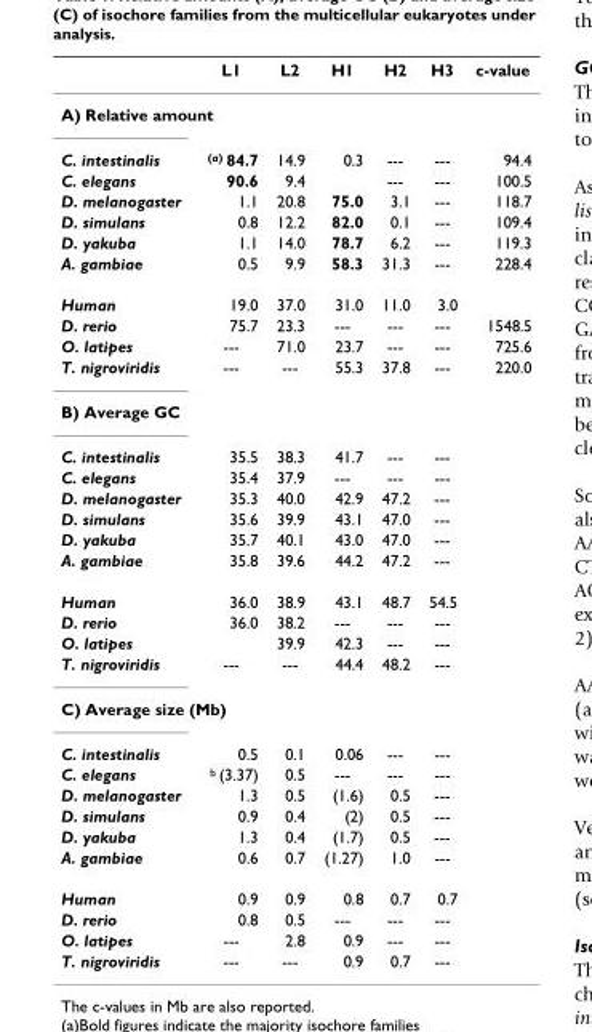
<table><thead><tr><td></td><td>L1</td><td>L2</td><td>H1</td><td>H2</td><td>H3</td><td>c-value</td></tr></thead><tbody><tr><td colspan="7">A) Relative amount</td></tr><tr><td>C. intestinalis</td><td><sup>(a)</sup> 84.7</td><td>14.9</td><td>0.3</td><td>---</td><td>---</td><td>94.4</td></tr><tr><td>C. elegans</td><td>90.6</td><td>9.4</td><td></td><td>---</td><td>---</td><td>100.5</td></tr><tr><td>D. melanogaster</td><td>1.1</td><td>20.8</td><td>75.0</td><td>3.1</td><td>---</td><td>118.7</td></tr><tr><td>D. simulans</td><td>0.8</td><td>12.2</td><td>82.0</td><td>0.1</td><td>---</td><td>109.4</td></tr><tr><td>D. yakuba</td><td>1.1</td><td>14.0</td><td>78.7</td><td>6.2</td><td>---</td><td>119.3</td></tr><tr><td>A. gambiae</td><td>0.5</td><td>9.9</td><td>58.3</td><td>31.3</td><td>---</td><td>228.4</td></tr><tr><td>Human</td><td>19.0</td><td>37.0</td><td>31.0</td><td>11.0</td><td>3.0</td><td></td></tr><tr><td>D. rerio</td><td>75.7</td><td>23.3</td><td>---</td><td>---</td><td>---</td><td>1548.5</td></tr><tr><td>O. latipes</td><td>---</td><td>71.0</td><td>23.7</td><td>---</td><td>---</td><td>725.6</td></tr><tr><td>T. nigroviridis</td><td>---</td><td>---</td><td>55.3</td><td>37.8</td><td>---</td><td>220.0</td></tr><tr><td colspan="7">B) Average GC</td></tr><tr><td>C. intestinalis</td><td>35.5</td><td>38.3</td><td>41.7</td><td>---</td><td>---</td><td></td></tr><tr><td>C. elegans</td><td>35.4</td><td>37.9</td><td>---</td><td>---</td><td>---</td><td></td></tr><tr><td>D. melanogaster</td><td>35.3</td><td>40.0</td><td>42.9</td><td>47.2</td><td>---</td><td></td></tr><tr><td>D. simulans</td><td>35.6</td><td>39.9</td><td>43.1</td><td>47.0</td><td>---</td><td></td></tr><tr><td>D. yakuba</td><td>35.7</td><td>40.1</td><td>43.0</td><td>47.0</td><td>---</td><td></td></tr><tr><td>A. gambiae</td><td>35.8</td><td>39.6</td><td>44.2</td><td>47.2</td><td>---</td><td></td></tr><tr><td>Human</td><td>36.0</td><td>38.9</td><td>43.1</td><td>48.7</td><td>54.5</td><td></td></tr><tr><td>D. rerio</td><td>36.0</td><td>38.2</td><td>---</td><td>---</td><td>---</td><td></td></tr><tr><td>O. latipes</td><td></td><td>39.9</td><td>42.3</td><td>---</td><td>---</td><td></td></tr><tr><td>T. nigroviridis</td><td>---</td><td>---</td><td>44.4</td><td>48.2</td><td>---</td><td></td></tr><tr><td colspan="7">C) Average size (Mb)</td></tr><tr><td>C. intestinalis</td><td>0.5</td><td>0.1</td><td>0.06</td><td>---</td><td>---</td><td></td></tr><tr><td>C. elegans</td><td><sup>b</sup> (3.37)</td><td>0.5</td><td>---</td><td>---</td><td>---</td><td></td></tr><tr><td>D. melanogaster</td><td>1.3</td><td>0.5</td><td>(1.6)</td><td>0.5</td><td>---</td><td></td></tr><tr><td>D. simulans</td><td>0.9</td><td>0.4</td><td>(2)</td><td>0.5</td><td>---</td><td></td></tr><tr><td>D. yakuba</td><td>1.3</td><td>0.4</td><td>(1.7)</td><td>0.5</td><td>---</td><td></td></tr><tr><td>A. gambiae</td><td>0.6</td><td>0.7</td><td>(1.27)</td><td>1.0</td><td>---</td><td></td></tr><tr><td>Human</td><td>0.9</td><td>0.9</td><td>0.8</td><td>0.7</td><td>0.7</td><td></td></tr><tr><td>D. rerio</td><td>0.8</td><td>0.5</td><td>---</td><td>---</td><td>---</td><td></td></tr><tr><td>O. latipes</td><td>---</td><td>2.8</td><td>0.9</td><td>---</td><td>---</td><td></td></tr><tr><td>T. nigroviridis</td><td>---</td><td>---</td><td>0.9</td><td>0.7</td><td>---</td><td></td></tr></tbody></table>